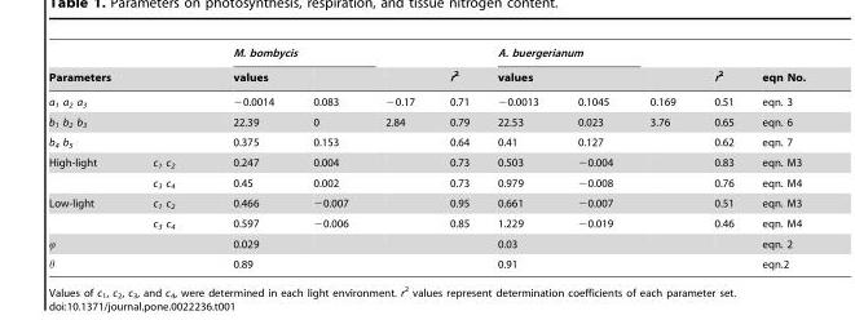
<table><thead><tr><td></td><td></td><td colspan="2">M. bombycis</td><td rowspan="2"></td><td rowspan="2">r<sup>2</sup></td><td colspan="2">A. buergerianum</td><td rowspan="2"></td><td rowspan="2">r<sup>2</sup></td><td rowspan="2">eqn No.</td></tr><tr><td colspan="2">Parameters</td><td>values</td><td></td><td>values</td><td></td></tr></thead><tbody><tr><td colspan="2">a<sub>1</sub> a<sub>2</sub> a<sub>3</sub></td><td>−0.0014</td><td>0.083</td><td>−0.17</td><td>0.71</td><td>−0.0013</td><td>0.1045</td><td>0.169</td><td>0.51</td><td>eqn. 3</td></tr><tr><td colspan="2">b<sub>1</sub> b<sub>2</sub> b<sub>3</sub></td><td>22.39</td><td>0</td><td>2.84</td><td>0.79</td><td>22.53</td><td>0.023</td><td>3.76</td><td>0.65</td><td>eqn. 6</td></tr><tr><td colspan="2">b<sub>4</sub> b<sub>5</sub></td><td>0.375</td><td>0.153</td><td></td><td>0.64</td><td>0.41</td><td>0.127</td><td></td><td>0.62</td><td>eqn. 7</td></tr><tr><td rowspan="2">High-light</td><td>c<sub>1</sub> c<sub>2</sub></td><td>0.247</td><td>0.004</td><td></td><td>0.73</td><td>0.503</td><td>−0.004</td><td></td><td>0.83</td><td>eqn. M3</td></tr><tr><td>c<sub>3</sub> c<sub>4</sub></td><td>0.45</td><td>0.002</td><td></td><td>0.73</td><td>0.979</td><td>−0.008</td><td></td><td>0.76</td><td>eqn. M4</td></tr><tr><td rowspan="2">Low-light</td><td>c<sub>1</sub> c<sub>2</sub></td><td>0.466</td><td>−0.007</td><td></td><td>0.95</td><td>0.661</td><td>−0.007</td><td></td><td>0.51</td><td>eqn. M3</td></tr><tr><td>c<sub>3</sub> c<sub>4</sub></td><td>0.597</td><td>−0.006</td><td></td><td>0.85</td><td>1.229</td><td>−0.019</td><td></td><td>0.46</td><td>eqn. M4</td></tr><tr><td colspan="2">ϕ</td><td>0.029</td><td></td><td></td><td></td><td>0.03</td><td></td><td></td><td></td><td>eqn. 2</td></tr><tr><td colspan="2">θ</td><td>0.89</td><td></td><td></td><td></td><td>0.91</td><td></td><td></td><td></td><td>eqn.2</td></tr></tbody></table>